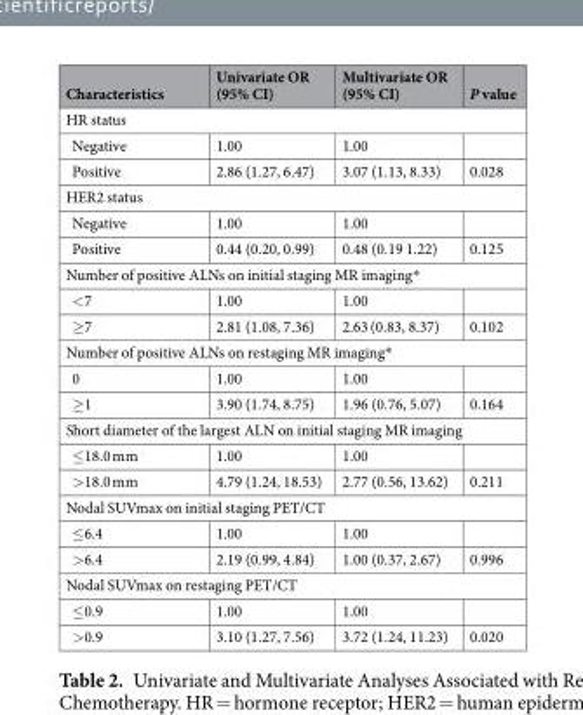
<table><thead><tr><td>Characteristics</td><td>Univariate OR (95% CI)</td><td>Multivariate OR (95% CI)</td><td>P value</td></tr></thead><tbody><tr><td colspan="4">HR status</td></tr><tr><td>Negative</td><td>1.00</td><td>1.00</td><td></td></tr><tr><td>Positive</td><td>2.86 (1.27, 6.47)</td><td>3.07 (1.13, 8.33)</td><td>0.028</td></tr><tr><td colspan="4">HER2 status</td></tr><tr><td>Negative</td><td>1.00</td><td>1.00</td><td></td></tr><tr><td>Positive</td><td>0.44 (0.20, 0.99)</td><td>0.48 (0.19 1.22)</td><td>0.125</td></tr><tr><td colspan="4">Number of positive ALNs on initial staging MR imaging*</td></tr><tr><td>&lt;7</td><td>1.00</td><td>1.00</td><td></td></tr><tr><td>≥7</td><td>2.81 (1.08, 7.36)</td><td>2.63 (0.83, 8.37)</td><td>0.102</td></tr><tr><td colspan="4">Number of positive ALNs on restaging MR imaging*</td></tr><tr><td>0</td><td>1.00</td><td>1.00</td><td></td></tr><tr><td>≥1</td><td>3.90 (1.74, 8.75)</td><td>1.96 (0.76, 5.07)</td><td>0.164</td></tr><tr><td colspan="4">Short diameter of the largest ALN on initial staging MR imaging</td></tr><tr><td>≤18.0 mm</td><td>1.00</td><td>1.00</td><td></td></tr><tr><td>&gt;18.0 mm</td><td>4.79 (1.24, 18.53)</td><td>2.77 (0.56, 13.62)</td><td>0.211</td></tr><tr><td colspan="4">Nodal SUVmax on initial staging PET/CT</td></tr><tr><td>≤6.4</td><td>1.00</td><td>1.00</td><td></td></tr><tr><td>&gt;6.4</td><td>2.19 (0.99, 4.84)</td><td>1.00 (0.37, 2.67)</td><td>0.996</td></tr><tr><td colspan="4">Nodal SUVmax on restaging PET/CT</td></tr><tr><td>≤0.9</td><td>1.00</td><td>1.00</td><td></td></tr><tr><td>&gt;0.9</td><td>3.10 (1.27, 7.56)</td><td>3.72 (1.24, 11.23)</td><td>0.020</td></tr></tbody></table>